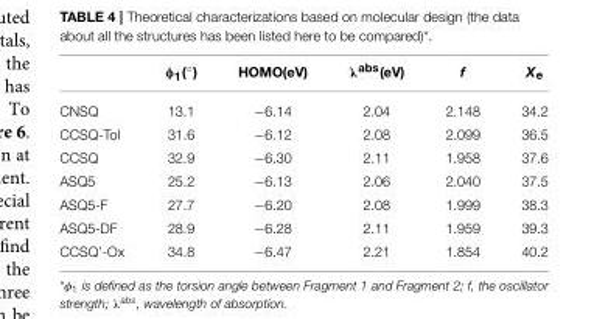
<table><thead><tr><td></td><td>φ1(◦)</td><td>HOMO(eV)</td><td>λ<sup>abs</sup>(eV)</td><td>f</td><td>X<sub>e</sub></td></tr></thead><tbody><tr><td>CNSQ</td><td>13.1</td><td>−6.14</td><td>2.04</td><td>2.148</td><td>34.2</td></tr><tr><td>CCSQ-Tol</td><td>31.6</td><td>−6.12</td><td>2.08</td><td>2.099</td><td>36.5</td></tr><tr><td>CCSQ</td><td>32.9</td><td>−6.30</td><td>2.11</td><td>1.958</td><td>37.6</td></tr><tr><td>ASQ5</td><td>25.2</td><td>−6.13</td><td>2.06</td><td>2.040</td><td>37.5</td></tr><tr><td>ASQ5-F</td><td>27.7</td><td>−6.20</td><td>2.08</td><td>1.999</td><td>38.3</td></tr><tr><td>ASQ5-DF</td><td>28.9</td><td>−6.28</td><td>2.11</td><td>1.959</td><td>39.3</td></tr><tr><td>CCSQ’-Ox</td><td>34.8</td><td>−6.47</td><td>2.21</td><td>1.854</td><td>40.2</td></tr></tbody></table>